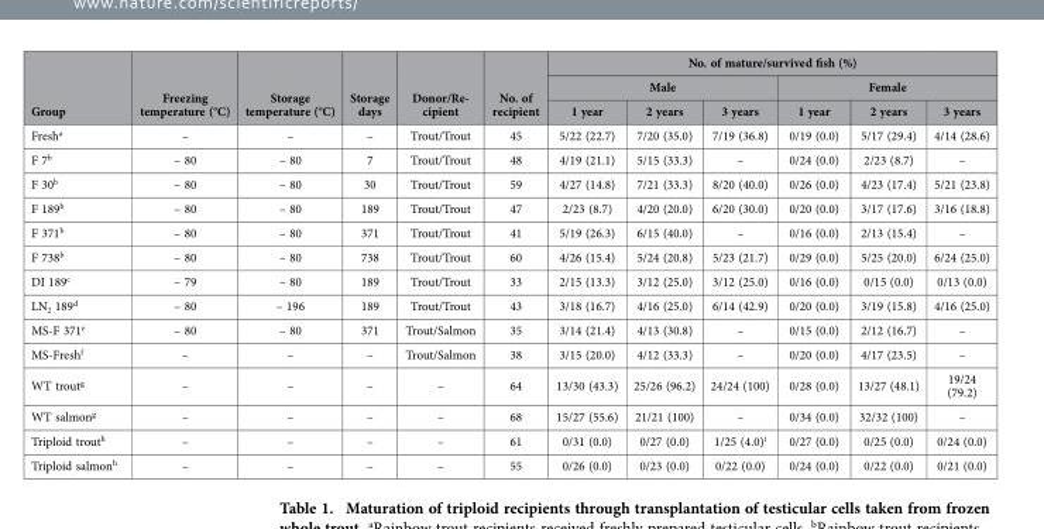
<table><thead><tr><td rowspan="3">Group</td><td rowspan="3">Freezing temperature (°C)</td><td rowspan="3">Storage temperature (°C)</td><td rowspan="3">Storage days</td><td rowspan="3">Donor/Re- cipient</td><td rowspan="3">No. of recipient</td><td colspan="6">No. of mature/survived fish (%)</td></tr><tr><td colspan="3">Male</td><td colspan="3">Female</td></tr><tr><td>1 year</td><td>2 years</td><td>3 years</td><td>1 year</td><td>2 years</td><td>3 years</td></tr></thead><tbody><tr><td>Fresh<sup>a</sup></td><td>–</td><td>–</td><td>–</td><td>Trout/Trout</td><td>45</td><td>5/22 (22.7)</td><td>7/20 (35.0)</td><td>7/19 (36.8)</td><td>0/19 (0.0)</td><td>5/17 (29.4)</td><td>4/14 (28.6)</td></tr><tr><td>F 7<sup>b</sup></td><td>– 80</td><td>– 80</td><td>7</td><td>Trout/Trout</td><td>48</td><td>4/19 (21.1)</td><td>5/15 (33.3)</td><td>–</td><td>0/24 (0.0)</td><td>2/23 (8.7)</td><td>–</td></tr><tr><td>F 30<sup>b</sup></td><td>– 80</td><td>– 80</td><td>30</td><td>Trout/Trout</td><td>59</td><td>4/27 (14.8)</td><td>7/21 (33.3)</td><td>8/20 (40.0)</td><td>0/26 (0.0)</td><td>4/23 (17.4)</td><td>5/21 (23.8)</td></tr><tr><td>F 189<sup>b</sup></td><td>– 80</td><td>– 80</td><td>189</td><td>Trout/Trout</td><td>47</td><td>2/23 (8.7)</td><td>4/20 (20.0)</td><td>6/20 (30.0)</td><td>0/20 (0.0)</td><td>3/17 (17.6)</td><td>3/16 (18.8)</td></tr><tr><td>F 371<sup>b</sup></td><td>– 80</td><td>– 80</td><td>371</td><td>Trout/Trout</td><td>41</td><td>5/19 (26.3)</td><td>6/15 (40.0)</td><td>–</td><td>0/16 (0.0)</td><td>2/13 (15.4)</td><td>–</td></tr><tr><td>F 738<sup>b</sup></td><td>– 80</td><td>– 80</td><td>738</td><td>Trout/Trout</td><td>60</td><td>4/26 (15.4)</td><td>5/24 (20.8)</td><td>5/23 (21.7)</td><td>0/29 (0.0)</td><td>5/25 (20.0)</td><td>6/24 (25.0)</td></tr><tr><td>DI 189<sup>c</sup></td><td>– 79</td><td>– 80</td><td>189</td><td>Trout/Trout</td><td>33</td><td>2/15 (13.3)</td><td>3/12 (25.0)</td><td>3/12 (25.0)</td><td>0/16 (0.0)</td><td>0/15 (0.0)</td><td>0/13 (0.0)</td></tr><tr><td>LN<sub>2</sub> 189<sup>d</sup></td><td>– 80</td><td>– 196</td><td>189</td><td>Trout/Trout</td><td>43</td><td>3/18 (16.7)</td><td>4/16 (25.0)</td><td>6/14 (42.9)</td><td>0/20 (0.0)</td><td>3/19 (15.8)</td><td>4/16 (25.0)</td></tr><tr><td>MS-F 371<sup>e</sup></td><td>– 80</td><td>– 80</td><td>371</td><td>Trout/Salmon</td><td>35</td><td>3/14 (21.4)</td><td>4/13 (30.8)</td><td>–</td><td>0/15 (0.0)</td><td>2/12 (16.7)</td><td>–</td></tr><tr><td>MS-Fresh<sup>f</sup></td><td>–</td><td>–</td><td>–</td><td>Trout/Salmon</td><td>38</td><td>3/15 (20.0)</td><td>4/12 (33.3)</td><td>–</td><td>0/20 (0.0)</td><td>4/17 (23.5)</td><td>–</td></tr><tr><td>WT trout<sup>g</sup></td><td>–</td><td>–</td><td>–</td><td>–</td><td>64</td><td>13/30 (43.3)</td><td>25/26 (96.2)</td><td>24/24 (100)</td><td>0/28 (0.0)</td><td>13/27 (48.1)</td><td>19/24 (79.2)</td></tr><tr><td>WT salmon<sup>g</sup></td><td>–</td><td>–</td><td>–</td><td>–</td><td>68</td><td>15/27 (55.6)</td><td>21/21 (100)</td><td>–</td><td>0/34 (0.0)</td><td>32/32 (100)</td><td>–</td></tr><tr><td>Triploid trout<sup>h</sup></td><td>–</td><td>–</td><td>–</td><td>–</td><td>61</td><td>0/31 (0.0)</td><td>0/27 (0.0)</td><td>1/25 (4.0)<sup>i</sup></td><td>0/27 (0.0)</td><td>0/25 (0.0)</td><td>0/24 (0.0)</td></tr><tr><td>Triploid salmon<sup>h</sup></td><td>–</td><td>–</td><td>–</td><td>–</td><td>55</td><td>0/26 (0.0)</td><td>0/23 (0.0)</td><td>0/22 (0.0)</td><td>0/24 (0.0)</td><td>0/22 (0.0)</td><td>0/21 (0.0)</td></tr></tbody></table>